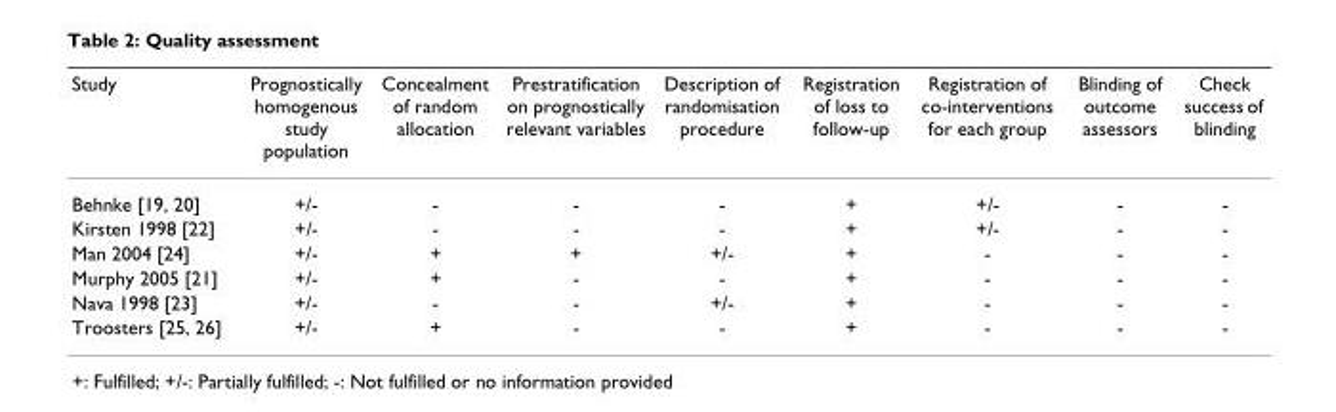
<table><thead><tr><td>Study</td><td>Prognostically homogenous study population</td><td>Concealment of random allocation</td><td>Prestratification on prognostically relevant variables</td><td>Description of randomisation procedure</td><td>Registration of loss to follow-up</td><td>Registration of co-interventions for each group</td><td>Blinding of outcome assessors</td><td>Check success of blinding</td></tr></thead><tbody><tr><td>Behnke [19, 20]</td><td>+/-</td><td>-</td><td>-</td><td>-</td><td>+</td><td>+/-</td><td>-</td><td>-</td></tr><tr><td>Kirsten 1998 [22]</td><td>+/-</td><td>-</td><td>-</td><td>-</td><td>+</td><td>+/-</td><td>-</td><td>-</td></tr><tr><td>Man 2004 [24]</td><td>+/-</td><td>+</td><td>+</td><td>+/-</td><td>+</td><td>-</td><td>-</td><td>-</td></tr><tr><td>Murphy 2005 [21]</td><td>+/-</td><td>+</td><td>-</td><td>-</td><td>+</td><td>-</td><td>-</td><td>-</td></tr><tr><td>Nava 1998 [23]</td><td>+/-</td><td>-</td><td>-</td><td>+/-</td><td>+</td><td>-</td><td>-</td><td>-</td></tr><tr><td>Troosters [25, 26]</td><td>+/-</td><td>+</td><td>-</td><td>-</td><td>+</td><td>-</td><td>-</td><td>-</td></tr></tbody></table>